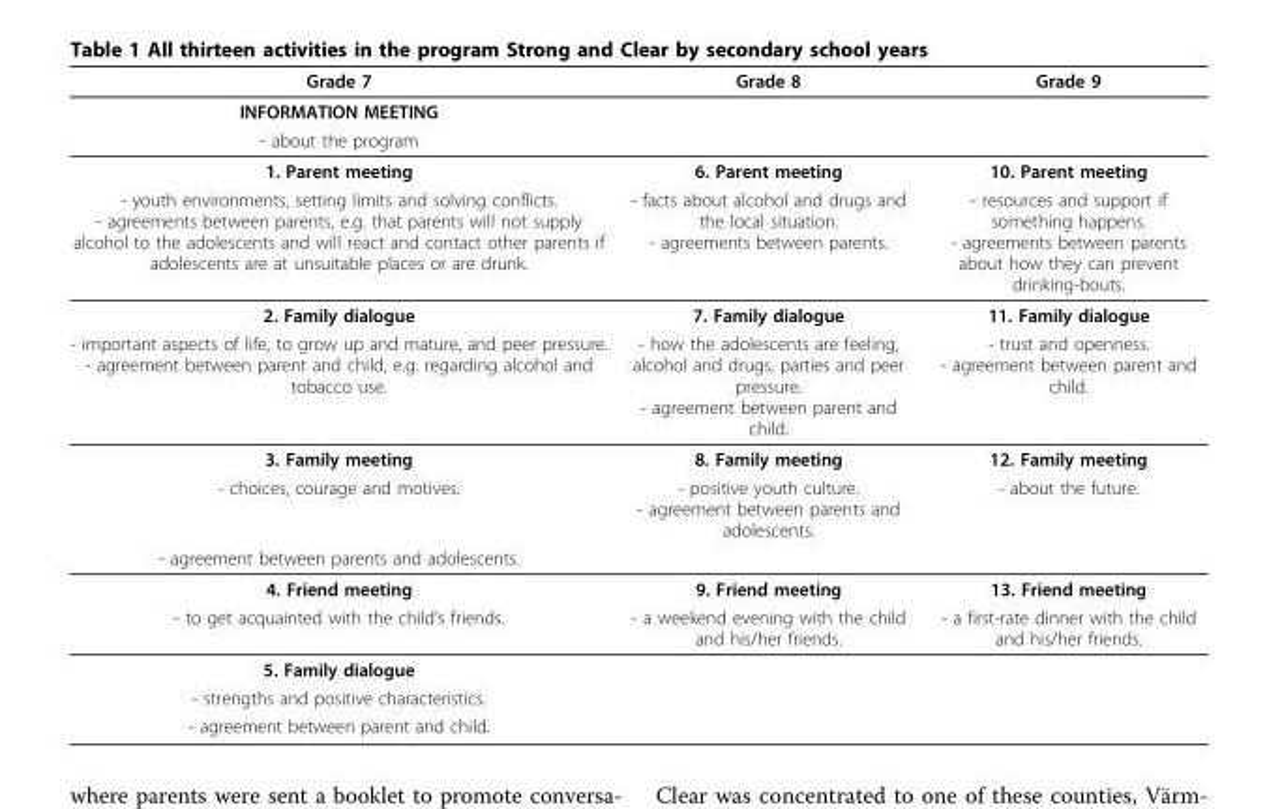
<table><thead><tr><td>Grade 7</td><td>Grade 8</td><td>Grade 9</td></tr></thead><tbody><tr><td colspan="3">INFORMATION MEETING</td></tr><tr><td colspan="3">- about the program</td></tr><tr><td>1. Parent meeting</td><td>6. Parent meeting</td><td>10. Parent meeting</td></tr><tr><td>- youth environments, setting limits and solving conflicts. - agreements between parents, e.g. that parents will not supply alcohol to the adolescents and will react and contact other parents if adolescents are at unsuitable places or are drunk.</td><td>- facts about alcohol and drugs and the local situation. - agreements between parents.</td><td>- resources and support if something happens. - agreements between parents about how they can prevent drinking-bouts.</td></tr><tr><td>2. Family dialogue</td><td>7. Family dialogue</td><td>11. Family dialogue</td></tr><tr><td>- important aspects of life, to grow up and mature, and peer pressure. - agreement between parent and child, e.g. regarding alcohol and tobacco use.</td><td>- how the adolescents are feeling, alcohol and drugs, parties and peer pressure. - agreement between parent and child.</td><td>- trust and openness. - agreement between parent and child.</td></tr><tr><td>3. Family meeting</td><td>8. Family meeting</td><td>12. Family meeting</td></tr><tr><td>- choices, courage and motives.</td><td>- positive youth culture. - agreement between parents and adolescents.</td><td>- about the future.</td></tr><tr><td colspan="3">- agreement between parents and adolescents.</td></tr><tr><td>4. Friend meeting</td><td>9. Friend meeting</td><td>13. Friend meeting</td></tr><tr><td>- to get acquainted with the child’s friends.</td><td>- a weekend evening with the child and his/her friends.</td><td>- a first-rate dinner with the child and his/her friends.</td></tr><tr><td colspan="3">5. Family dialogue</td></tr><tr><td colspan="3">- strengths and positive characteristics.</td></tr><tr><td>- agreement between parent and child.</td><td></td><td></td></tr></tbody></table>